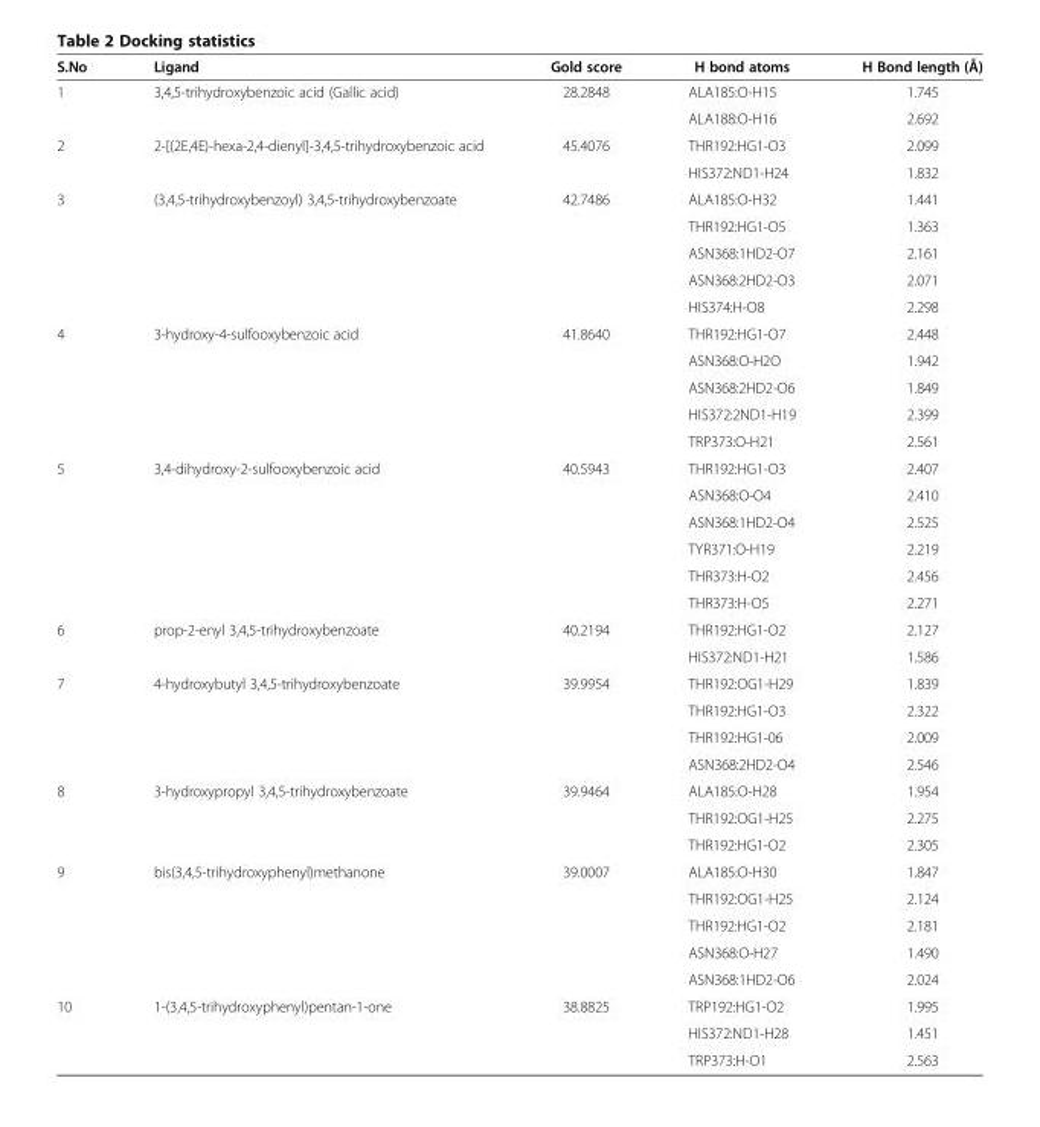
<table><thead><tr><td>S.No</td><td>Ligand</td><td>Gold score</td><td>H bond atoms</td><td>H Bond length (Å)</td></tr></thead><tbody><tr><td rowspan="2">1</td><td>3,4,5-trihydroxybenzoic acid (Gallic acid)</td><td>28.2848</td><td>ALA185:O-H15</td><td>1.745</td></tr><tr><td></td><td></td><td>ALA188:O-H16</td><td>2.692</td></tr><tr><td rowspan="2">2</td><td>2-[(2E,4E)-hexa-2,4-dienyl]-3,4,5-trihydroxybenzoic acid</td><td>45.4076</td><td>THR192:HG1-O3</td><td>2.099</td></tr><tr><td></td><td></td><td>HIS372:ND1-H24</td><td>1.832</td></tr><tr><td rowspan="5">3</td><td>(3,4,5-trihydroxybenzoyl) 3,4,5-trihydroxybenzoate</td><td>42.7486</td><td>ALA185:O-H32</td><td>1.441</td></tr><tr><td></td><td></td><td>THR192:HG1-O5</td><td>1.363</td></tr><tr><td></td><td></td><td>ASN368:1HD2-O7</td><td>2.161</td></tr><tr><td></td><td></td><td>ASN368:2HD2-O3</td><td>2.071</td></tr><tr><td></td><td></td><td>HIS374:H-O8</td><td>2.298</td></tr><tr><td rowspan="5">4</td><td>3-hydroxy-4-sulfooxybenzoic acid</td><td>41.8640</td><td>THR192:HG1-O7</td><td>2.448</td></tr><tr><td></td><td></td><td>ASN368:O-H2O</td><td>1.942</td></tr><tr><td></td><td></td><td>ASN368:2HD2-O6</td><td>1.849</td></tr><tr><td></td><td></td><td>HIS372:2ND1-H19</td><td>2.399</td></tr><tr><td></td><td></td><td>TRP373:O-H21</td><td>2.561</td></tr><tr><td rowspan="6">5</td><td>3,4-dihydroxy-2-sulfooxybenzoic acid</td><td>40.5943</td><td>THR192:HG1-O3</td><td>2.407</td></tr><tr><td></td><td></td><td>ASN368:O-O4</td><td>2.410</td></tr><tr><td></td><td></td><td>ASN368:1HD2-O4</td><td>2.525</td></tr><tr><td></td><td></td><td>TYR371:O-H19</td><td>2.219</td></tr><tr><td></td><td></td><td>THR373:H-O2</td><td>2.456</td></tr><tr><td></td><td></td><td>THR373:H-O5</td><td>2.271</td></tr><tr><td rowspan="2">6</td><td>prop-2-enyl 3,4,5-trihydroxybenzoate</td><td>40.2194</td><td>THR192:HG1-O2</td><td>2.127</td></tr><tr><td></td><td></td><td>HIS372:ND1-H21</td><td>1.586</td></tr><tr><td rowspan="4">7</td><td>4-hydroxybutyl 3,4,5-trihydroxybenzoate</td><td>39.9954</td><td>THR192:OG1-H29</td><td>1.839</td></tr><tr><td></td><td></td><td>THR192:HG1-O3</td><td>2.322</td></tr><tr><td></td><td></td><td>THR192:HG1-06</td><td>2.009</td></tr><tr><td></td><td></td><td>ASN368:2HD2-O4</td><td>2.546</td></tr><tr><td rowspan="3">8</td><td>3-hydroxypropyl 3,4,5-trihydroxybenzoate</td><td>39.9464</td><td>ALA185:O-H28</td><td>1.954</td></tr><tr><td></td><td></td><td>THR192:OG1-H25</td><td>2.275</td></tr><tr><td></td><td></td><td>THR192:HG1-O2</td><td>2.305</td></tr><tr><td rowspan="5">9</td><td>bis(3,4,5-trihydroxyphenyl)methanone</td><td>39.0007</td><td>ALA185:O-H30</td><td>1.847</td></tr><tr><td></td><td></td><td>THR192:OG1-H25</td><td>2.124</td></tr><tr><td></td><td></td><td>THR192:HG1-O2</td><td>2.181</td></tr><tr><td></td><td></td><td>ASN368:O-H27</td><td>1.490</td></tr><tr><td></td><td></td><td>ASN368:1HD2-O6</td><td>2.024</td></tr><tr><td rowspan="3">10</td><td>1-(3,4,5-trihydroxyphenyl)pentan-1-one</td><td>38.8825</td><td>TRP192:HG1-O2</td><td>1.995</td></tr><tr><td></td><td></td><td>HIS372:ND1-H28</td><td>1.451</td></tr><tr><td></td><td></td><td>TRP373:H-O1</td><td>2.563</td></tr></tbody></table>